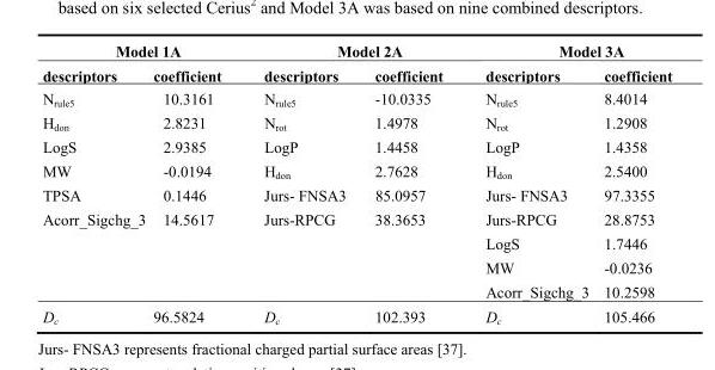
<table><thead><tr><td colspan="2">Model 1A</td><td colspan="2">Model 2A</td><td colspan="2">Model 3A</td></tr><tr><td>descriptors</td><td>coefficient</td><td>descriptors</td><td>coefficient</td><td>descriptors</td><td>coefficient</td></tr></thead><tbody><tr><td>N<sub>rule5</sub></td><td>10.3161</td><td>N<sub>rule5</sub></td><td>-10.0335</td><td>N<sub>rule5</sub></td><td>8.4014</td></tr><tr><td>H<sub>don</sub></td><td>2.8231</td><td>N<sub>rot</sub></td><td>1.4978</td><td>N<sub>rot</sub></td><td>1.2908</td></tr><tr><td>LogS</td><td>2.9385</td><td>LogP</td><td>1.4458</td><td>LogP</td><td>1.4358</td></tr><tr><td>MW</td><td>-0.0194</td><td>H<sub>don</sub></td><td>2.7628</td><td>H<sub>don</sub></td><td>2.5400</td></tr><tr><td>TPSA</td><td>0.1446</td><td>Jurs- FNSA3</td><td>85.0957</td><td>Jurs- FNSA3</td><td>97.3355</td></tr><tr><td rowspan="4">Acorr_Sigchg_3</td><td>14.5617</td><td>Jurs-RPCG</td><td>38.3653</td><td>Jurs-RPCG</td><td>28.8753</td></tr><tr><td></td><td></td><td></td><td>LogS</td><td>1.7446</td></tr><tr><td></td><td></td><td></td><td>MW</td><td>-0.0236</td></tr><tr><td></td><td></td><td></td><td>Acorr_Sigchg_3</td><td>10.2598</td></tr><tr><td>D<sub>c</sub></td><td>96.5824</td><td>D<sub>c</sub></td><td>102.393</td><td>D<sub>c</sub></td><td>105.466</td></tr></tbody></table>